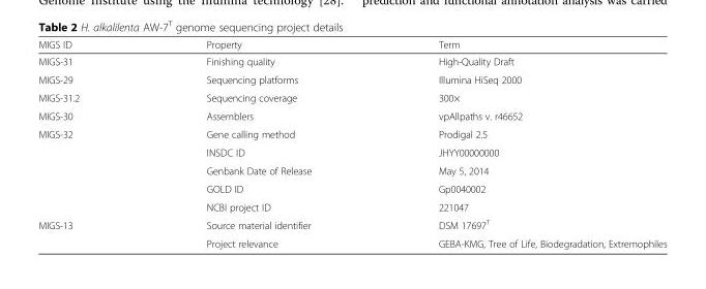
<table><thead><tr><td>MIGS ID</td><td>Property</td><td>Term</td></tr></thead><tbody><tr><td>MIGS-31</td><td>Finishing quality</td><td>High-Quality Draft</td></tr><tr><td>MIGS-29</td><td>Sequencing platforms</td><td>Illumina HiSeq 2000</td></tr><tr><td>MIGS-31.2</td><td>Sequencing coverage</td><td>300×</td></tr><tr><td>MIGS-30</td><td>Assemblers</td><td>vpAllpaths v. r46652</td></tr><tr><td rowspan="5">MIGS-32</td><td>Gene calling method</td><td>Prodigal 2.5</td></tr><tr><td>INSDC ID</td><td>JHYY00000000</td></tr><tr><td>Genbank Date of Release</td><td>May 5, 2014</td></tr><tr><td>GOLD ID</td><td>Gp0040002</td></tr><tr><td>NCBI project ID</td><td>221047</td></tr><tr><td rowspan="2">MIGS-13</td><td>Source material identifier</td><td>DSM 17697<sup>T</sup></td></tr><tr><td>Project relevance</td><td>GEBA-KMG, Tree of Life, Biodegradation, Extremophiles</td></tr></tbody></table>